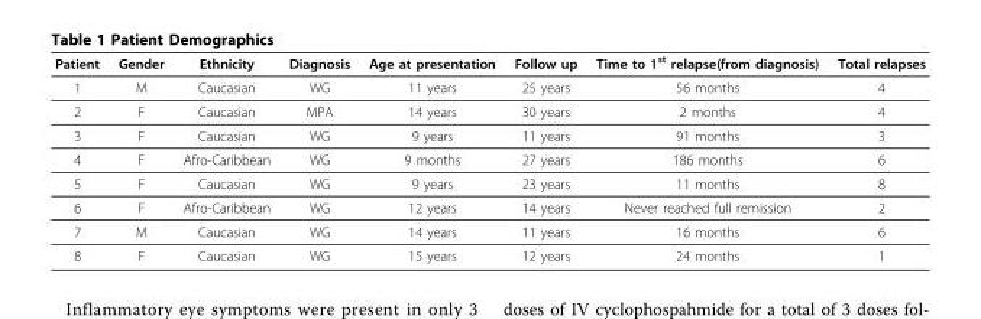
<table><thead><tr><td>Patient</td><td>Gender</td><td>Ethnicity</td><td>Diagnosis</td><td>Age at presentation</td><td>Follow up</td><td>Time to 1<sup>st</sup> relapse(from diagnosis)</td><td>Total relapses</td></tr></thead><tbody><tr><td>1</td><td>M</td><td>Caucasian</td><td>WG</td><td>11 years</td><td>25 years</td><td>56 months</td><td>4</td></tr><tr><td>2</td><td>F</td><td>Caucasian</td><td>MPA</td><td>14 years</td><td>30 years</td><td>2 months</td><td>4</td></tr><tr><td>3</td><td>F</td><td>Caucasian</td><td>WG</td><td>9 years</td><td>11 years</td><td>91 months</td><td>3</td></tr><tr><td>4</td><td>F</td><td>Afro-Caribbean</td><td>WG</td><td>9 months</td><td>27 years</td><td>186 months</td><td>6</td></tr><tr><td>5</td><td>F</td><td>Caucasian</td><td>WG</td><td>9 years</td><td>23 years</td><td>11 months</td><td>8</td></tr><tr><td>6</td><td>F</td><td>Afro-Caribbean</td><td>WG</td><td>12 years</td><td>14 years</td><td>Never reached full remission</td><td>2</td></tr><tr><td>7</td><td>M</td><td>Caucasian</td><td>WG</td><td>14 years</td><td>11 years</td><td>16 months</td><td>6</td></tr><tr><td>8</td><td>F</td><td>Caucasian</td><td>WG</td><td>15 years</td><td>12 years</td><td>24 months</td><td>1</td></tr></tbody></table>